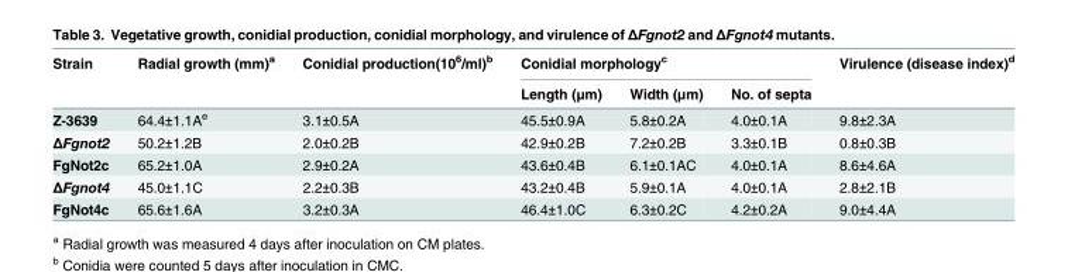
<table><thead><tr><td rowspan="2">Strain</td><td rowspan="2">Radial growth (mm)<sup>a</sup></td><td rowspan="2">Conidial production(10<sup>6</sup>/ml)<sup>b</sup></td><td colspan="3">Conidial morphology<sup>c</sup></td><td rowspan="2">Virulence (disease index)<sup>d</sup></td></tr><tr><td>Length (μm)</td><td>Width (μm)</td><td>No. of septa</td></tr></thead><tbody><tr><td>Z-3639</td><td>64.4±1.1A<sup>e</sup></td><td>3.1±0.5A</td><td>45.5±0.9A</td><td>5.8±0.2A</td><td>4.0±0.1A</td><td>9.8±2.3A</td></tr><tr><td>ΔFgnot2</td><td>50.2±1.2B</td><td>2.0±0.2B</td><td>42.9±0.2B</td><td>7.2±0.2B</td><td>3.3±0.1B</td><td>0.8±0.3B</td></tr><tr><td>FgNot2c</td><td>65.2±1.0A</td><td>2.9±0.2A</td><td>43.6±0.4B</td><td>6.1±0.1AC</td><td>4.0±0.1A</td><td>8.6±4.6A</td></tr><tr><td>ΔFgnot4</td><td>45.0±1.1C</td><td>2.2±0.3B</td><td>43.2±0.4B</td><td>5.9±0.1A</td><td>4.0±0.1A</td><td>2.8±2.1B</td></tr><tr><td>FgNot4c</td><td>65.6±1.6A</td><td>3.2±0.3A</td><td>46.4±1.0C</td><td>6.3±0.2C</td><td>4.2±0.2A</td><td>9.0±4.4A</td></tr></tbody></table>